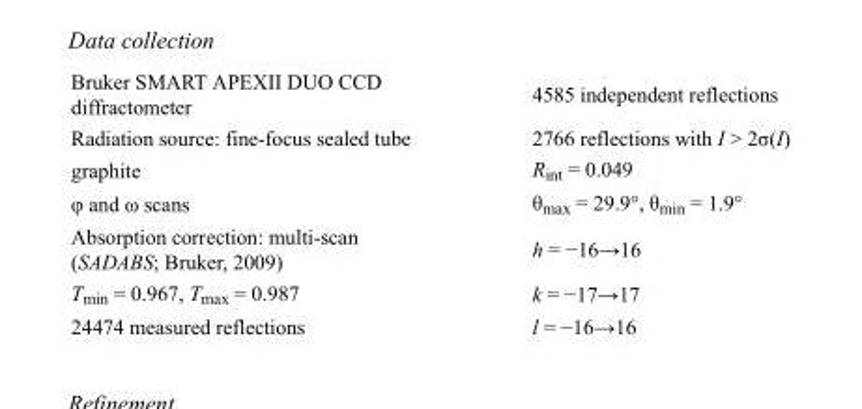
<table><tbody><tr><td>Bruker SMART APEXII DUO CCD diffractometer</td><td>4585 independent reflections</td></tr><tr><td>Radiation source: fine-focus sealed tube</td><td>2766 reflections with I &gt; 2σ(I)</td></tr><tr><td>graphite</td><td>R<sub>int</sub> = 0.049</td></tr><tr><td>φ and ω scans</td><td>θ<sub>max</sub> = 29.9°, θ<sub>min</sub> = 1.9°</td></tr><tr><td>Absorption correction: multi-scan (SADABS; Bruker, 2009)</td><td>h = −16→16</td></tr><tr><td>T<sub>min</sub> = 0.967, T<sub>max</sub> = 0.987</td><td>k = −17→17</td></tr><tr><td>24474 measured reflections</td><td>l = −16→16</td></tr></tbody></table>